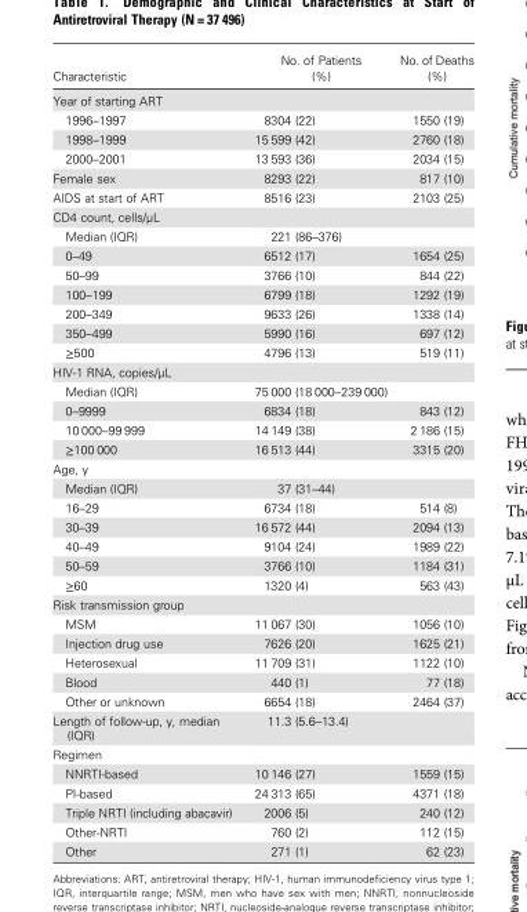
<table><thead><tr><td>Characteristic</td><td>No. of Patients (%)</td><td>No. of Deaths (%)</td></tr></thead><tbody><tr><td colspan="3">Year of starting ART</td></tr><tr><td>1996–1997</td><td>8304 (22)</td><td>1550 (19)</td></tr><tr><td>1998–1999</td><td>15 599 (42)</td><td>2760 (18)</td></tr><tr><td>2000–2001</td><td>13 593 (36)</td><td>2034 (15)</td></tr><tr><td>Female sex</td><td>8293 (22)</td><td>817 (10)</td></tr><tr><td>AIDS at start of ART</td><td>8516 (23)</td><td>2103 (25)</td></tr><tr><td colspan="3">CD4 count, cells/µL</td></tr><tr><td>Median (IQR)</td><td>221 (86–376)</td><td></td></tr><tr><td>0–49</td><td>6512 (17)</td><td>1654 (25)</td></tr><tr><td>50–99</td><td>3766 (10)</td><td>844 (22)</td></tr><tr><td>100–199</td><td>6799 (18)</td><td>1292 (19)</td></tr><tr><td>200–349</td><td>9633 (26)</td><td>1338 (14)</td></tr><tr><td>350–499</td><td>5990 (16)</td><td>697 (12)</td></tr><tr><td>≥500</td><td>4796 (13)</td><td>519 (11)</td></tr><tr><td colspan="3">HIV-1 RNA, copies/µL</td></tr><tr><td>Median (IQR)</td><td>75 000 (18 000–239 000)</td><td></td></tr><tr><td>0–9999</td><td>6834 (18)</td><td>843 (12)</td></tr><tr><td>10 000–99 999</td><td>14 149 (38)</td><td>2 186 (15)</td></tr><tr><td>≥100 000</td><td>16 513 (44)</td><td>3315 (20)</td></tr><tr><td colspan="3">Age, y</td></tr><tr><td>Median (IQR)</td><td>37 (31–44)</td><td></td></tr><tr><td>16–29</td><td>6734 (18)</td><td>514 (8)</td></tr><tr><td>30–39</td><td>16 572 (44)</td><td>2094 (13)</td></tr><tr><td>40–49</td><td>9104 (24)</td><td>1989 (22)</td></tr><tr><td>50–59</td><td>3766 (10)</td><td>1184 (31)</td></tr><tr><td>≥60</td><td>1320 (4)</td><td>563 (43)</td></tr><tr><td colspan="3">Risk transmission group</td></tr><tr><td>MSM</td><td>11 067 (30)</td><td>1056 (10)</td></tr><tr><td>Injection drug use</td><td>7626 (20)</td><td>1625 (21)</td></tr><tr><td>Heterosexual</td><td>11 709 (31)</td><td>1122 (10)</td></tr><tr><td>Blood</td><td>440 (1)</td><td>77 (18)</td></tr><tr><td>Other or unknown</td><td>6654 (18)</td><td>2464 (37)</td></tr><tr><td>Length of follow-up, y, median (IQR)</td><td>11.3 (5.6–13.4)</td><td></td></tr><tr><td colspan="3">Regimen</td></tr><tr><td>NNRTI-based</td><td>10 146 (27)</td><td>1559 (15)</td></tr><tr><td>PI-based</td><td>24 313 (65)</td><td>4371 (18)</td></tr><tr><td>Triple NRTI (including abacavir)</td><td>2006 (5)</td><td>240 (12)</td></tr><tr><td>Other-NRTI</td><td>760 (2)</td><td>112 (15)</td></tr><tr><td>Other</td><td>271 (1)</td><td>62 (23)</td></tr></tbody></table>